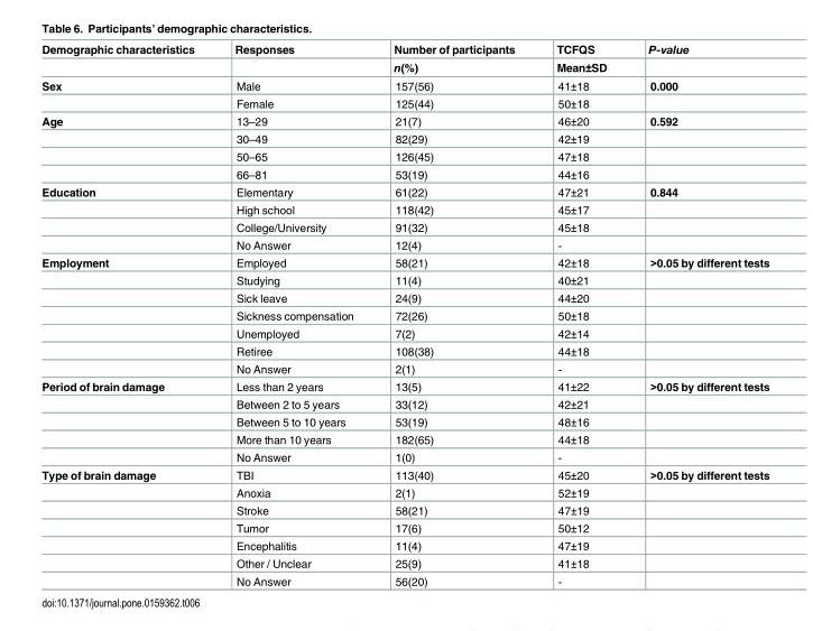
<table><thead><tr><td rowspan="2">Demographic characteristics</td><td rowspan="2">Responses</td><td rowspan="2">Number of participants n(%)</td><td rowspan="2">TCFQS Mean±SD</td><td rowspan="2">P-value</td></tr><tr></tr></thead><tbody><tr><td rowspan="2">Sex</td><td>Male</td><td>157(56)</td><td>41±18</td><td>0.000</td></tr><tr><td>Female</td><td>125(44)</td><td>50±18</td><td></td></tr><tr><td rowspan="4">Age</td><td>13–29</td><td>21(7)</td><td>46±20</td><td>0.592</td></tr><tr><td>30–49</td><td>82(29)</td><td>42±19</td><td></td></tr><tr><td>50–65</td><td>126(45)</td><td>47±18</td><td></td></tr><tr><td>66–81</td><td>53(19)</td><td>44±16</td><td></td></tr><tr><td rowspan="4">Education</td><td>Elementary</td><td>61(22)</td><td>47±21</td><td>0.844</td></tr><tr><td>High school</td><td>118(42)</td><td>45±17</td><td></td></tr><tr><td>College/University</td><td>91(32)</td><td>45±18</td><td></td></tr><tr><td>No Answer</td><td>12(4)</td><td>-</td><td></td></tr><tr><td rowspan="7">Employment</td><td>Employed</td><td>58(21)</td><td>42±18</td><td>&gt;0.05 by different tests</td></tr><tr><td>Studying</td><td>11(4)</td><td>40±21</td><td></td></tr><tr><td>Sick leave</td><td>24(9)</td><td>44±20</td><td></td></tr><tr><td>Sickness compensation</td><td>72(26)</td><td>50±18</td><td></td></tr><tr><td>Unemployed</td><td>7(2)</td><td>42±14</td><td></td></tr><tr><td>Retiree</td><td>108(38)</td><td>44±18</td><td></td></tr><tr><td>No Answer</td><td>2(1)</td><td>-</td><td></td></tr><tr><td rowspan="5">Period of brain damage</td><td>Less than 2 years</td><td>13(5)</td><td>41±22</td><td>&gt;0.05 by different tests</td></tr><tr><td>Between 2 to 5 years</td><td>33(12)</td><td>42±21</td><td></td></tr><tr><td>Between 5 to 10 years</td><td>53(19)</td><td>48±16</td><td></td></tr><tr><td>More than 10 years</td><td>182(65)</td><td>44±18</td><td></td></tr><tr><td>No Answer</td><td>1(0)</td><td>-</td><td></td></tr><tr><td rowspan="7">Type of brain damage</td><td>TBI</td><td>113(40)</td><td>45±20</td><td>&gt;0.05 by different tests</td></tr><tr><td>Anoxia</td><td>2(1)</td><td>52±19</td><td></td></tr><tr><td>Stroke</td><td>58(21)</td><td>47±19</td><td></td></tr><tr><td>Tumor</td><td>17(6)</td><td>50±12</td><td></td></tr><tr><td>Encephalitis</td><td>11(4)</td><td>47±19</td><td></td></tr><tr><td>Other / Unclear</td><td>25(9)</td><td>41±18</td><td></td></tr><tr><td>No Answer</td><td>56(20)</td><td>-</td><td></td></tr></tbody></table>